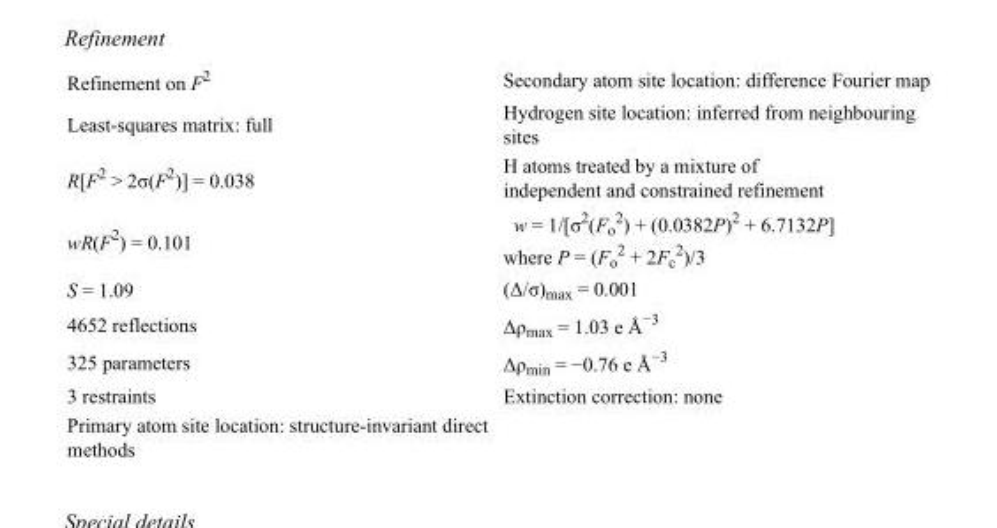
<table><tbody><tr><td>Refinement on F<sup>2</sup></td><td>Secondary atom site location: difference Fourier map</td></tr><tr><td>Least-squares matrix: full</td><td>Hydrogen site location: inferred from neighbouring sites</td></tr><tr><td>R[F<sup>2</sup> &gt; 2σ(F<sup>2</sup>)] = 0.038</td><td>H atoms treated by a mixture of independent and constrained refinement</td></tr><tr><td>wR(F<sup>2</sup>) = 0.101</td><td>w = 1/[σ<sup>2</sup>(F<sub>o</sub> <sup>2</sup>) + (0.0382P)<sup>2</sup> + 6.7132P] where P = (F<sub>o</sub> <sup>2</sup> + 2F<sub>c</sub> <sup>2</sup>)/3</td></tr><tr><td>S = 1.09</td><td>(Δ/σ)<sub>max</sub> = 0.001</td></tr><tr><td>4652 reflections</td><td>Δρ<sub>max</sub> = 1.03 e Å<sup>−3</sup></td></tr><tr><td>325 parameters</td><td>Δρ<sub>min</sub> = −0.76 e Å<sup>−3</sup></td></tr><tr><td>3 restraints</td><td>Extinction correction: none</td></tr><tr><td>Primary atom site location: structure-invariant direct methods</td><td></td></tr></tbody></table>